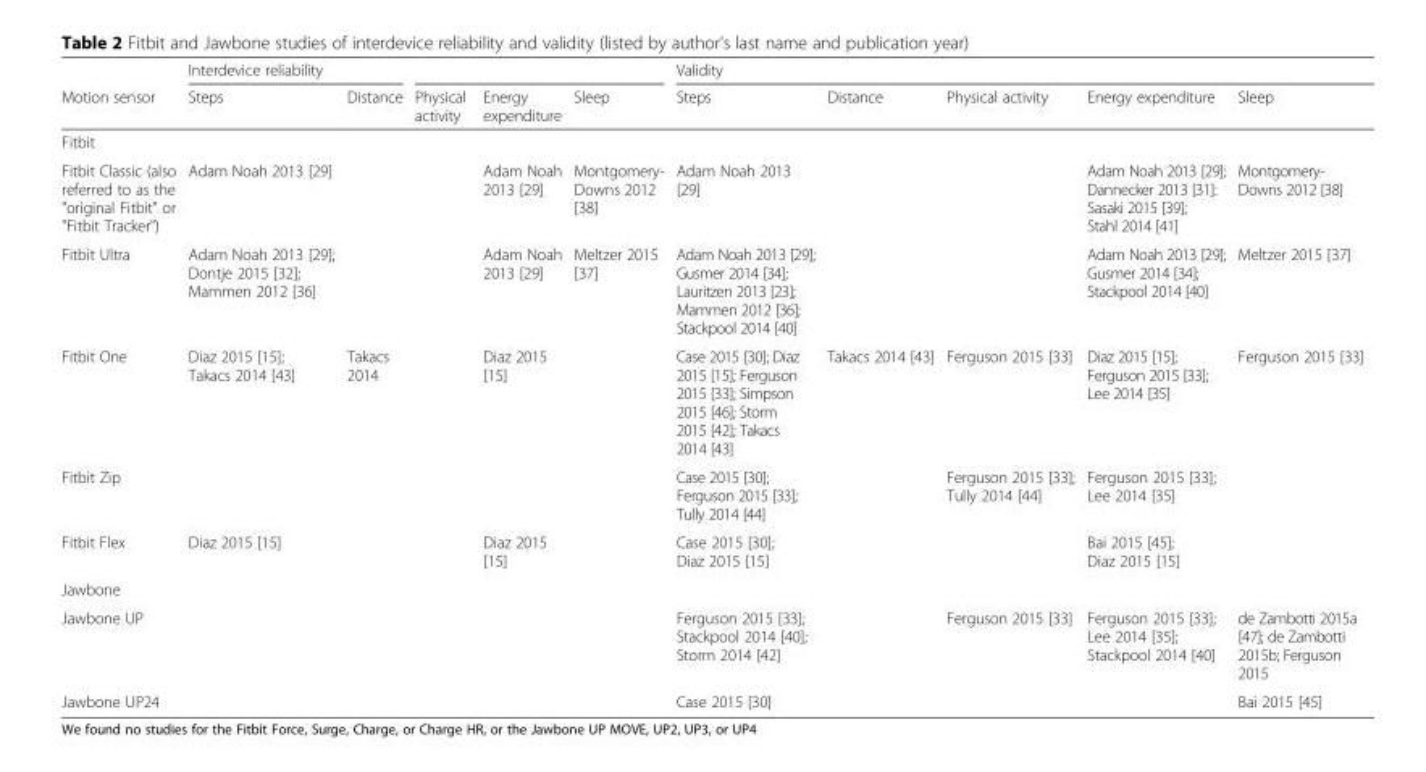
<table><thead><tr><td rowspan="2">Motion sensor</td><td colspan="2">Interdevice reliability</td><td rowspan="2">Physical activity</td><td rowspan="2">Energy expenditure</td><td rowspan="2">Sleep</td><td colspan="5">Validity</td></tr><tr><td>Steps</td><td>Distance</td><td>Steps</td><td>Distance</td><td>Physical activity</td><td>Energy expenditure</td><td>Sleep</td></tr></thead><tbody><tr><td colspan="11">Fitbit</td></tr><tr><td>Fitbit Classic (also referred to as the &quot;original Fitbit&quot; or &quot;Fitbit Tracker&quot;)</td><td>Adam Noah 2013 [29]</td><td></td><td></td><td>Adam Noah 2013 [29]</td><td>Montgomery- Downs 2012 [38]</td><td>Adam Noah 2013 [29]</td><td></td><td></td><td>Adam Noah 2013 [29]; Dannecker 2013 [31]: Sasaki 2015 [39]; Stahl 2014 [41]</td><td>Montgomery- Downs 2012 [38]</td></tr><tr><td>Fitbit Ultra</td><td>Adam Noah 2013 [29]; Dontje 2015 [32]; Mammen 2012 [36]</td><td></td><td></td><td>Adam Noah 2013 [29]</td><td>Meltzer 2015 [37]</td><td>Adam Noah 2013 [29]; Gusmer 2014 [34]; Lauritzen 2013 [23]; Mammen 2012 [36]; Stackpool 2014 [40]</td><td></td><td></td><td>Adam Noah 2013 [29]; Gusmer 2014 [34]; Stackpool 2014 [40]</td><td>Meltzer 2015 [37]</td></tr><tr><td>Fitbit One</td><td>Diaz 2015 [15]; Takacs 2014 [43]</td><td>Takacs 2014</td><td></td><td>Diaz 2015 [15]</td><td></td><td>Case 2015 [30]; Diaz 2015 [15]; Ferguson 2015 [33]; Simpson 2015 [46]; Storm 2015 [42]; Takacs 2014 [43]</td><td>Takacs 2014 [43]</td><td>Ferguson 2015 [33]</td><td>Diaz 2015 [15]; Ferguson 2015 [33]; Lee 2014 [35]</td><td>Ferguson 2015 [33]</td></tr><tr><td>Fitbit Zip</td><td></td><td></td><td></td><td></td><td></td><td>Case 2015 [30]; Ferguson 2015 [33]; Tully 2014 [44]</td><td></td><td>Ferguson 2015 [33]; Tully 2014 [44]</td><td>Ferguson 2015 [33]; Lee 2014 [35]</td><td></td></tr><tr><td>Fitbit Flex</td><td>Diaz 2015 [15]</td><td></td><td></td><td>Diaz 2015 [15]</td><td></td><td>Case 2015 [30]; Diaz 2015 [15]</td><td></td><td></td><td>Bai 2015 [45]; Diaz 2015 [15]</td><td></td></tr><tr><td colspan="11">Jawbone</td></tr><tr><td>Jawbone UP</td><td></td><td></td><td></td><td></td><td></td><td>Ferguson 2015 [33]; Stackpool 2014 [40]; Storm 2014 [42]</td><td></td><td>Ferguson 2015 [33]</td><td>Ferguson 2015 [33]; Lee 2014 [35]; Stackpool 2014 [40]</td><td>de Zambotti 2015a [47]; de Zambotti 2015b; Ferguson 2015</td></tr><tr><td>Jawbone UP24</td><td></td><td></td><td></td><td></td><td></td><td>Case 2015 [30]</td><td></td><td></td><td></td><td>Bai 2015 [45]</td></tr></tbody></table>